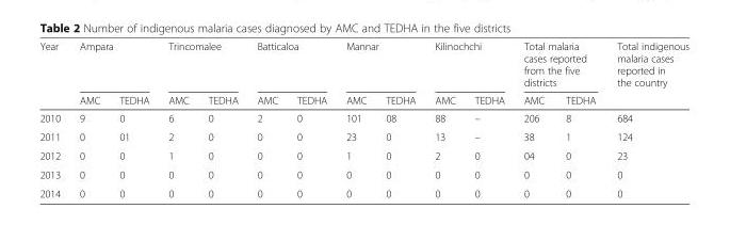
<table><thead><tr><td rowspan="2">Year</td><td colspan="2">Ampara</td><td colspan="2">Trincomalee</td><td colspan="2">Batticaloa</td><td colspan="2">Mannar</td><td colspan="2">Kilinochchi</td><td colspan="2">Total malaria cases reported from the five districts</td><td rowspan="2">Total indigenous malaria cases reported in the country</td></tr><tr><td>AMC</td><td>TEDHA</td><td>AMC</td><td>TEDHA</td><td>AMC</td><td>TEDHA</td><td>AMC</td><td>TEDHA</td><td>AMC</td><td>TEDHA</td><td>AMC</td><td>TEDHA</td></tr></thead><tbody><tr><td>2010</td><td>9</td><td>0</td><td>6</td><td>0</td><td>2</td><td>0</td><td>101</td><td>08</td><td>88</td><td>–</td><td>206</td><td>8</td><td>684</td></tr><tr><td>2011</td><td>0</td><td>01</td><td>2</td><td>0</td><td>0</td><td>0</td><td>23</td><td>0</td><td>13</td><td>–</td><td>38</td><td>1</td><td>124</td></tr><tr><td>2012</td><td>0</td><td>0</td><td>1</td><td>0</td><td>0</td><td>0</td><td>1</td><td>0</td><td>2</td><td>0</td><td>04</td><td>0</td><td>23</td></tr><tr><td>2013</td><td>0</td><td>0</td><td>0</td><td>0</td><td>0</td><td>0</td><td>0</td><td>0</td><td>0</td><td>0</td><td>0</td><td>0</td><td>0</td></tr><tr><td>2014</td><td>0</td><td>0</td><td>0</td><td>0</td><td>0</td><td>0</td><td>0</td><td>0</td><td>0</td><td>0</td><td>0</td><td>0</td><td>0</td></tr></tbody></table>